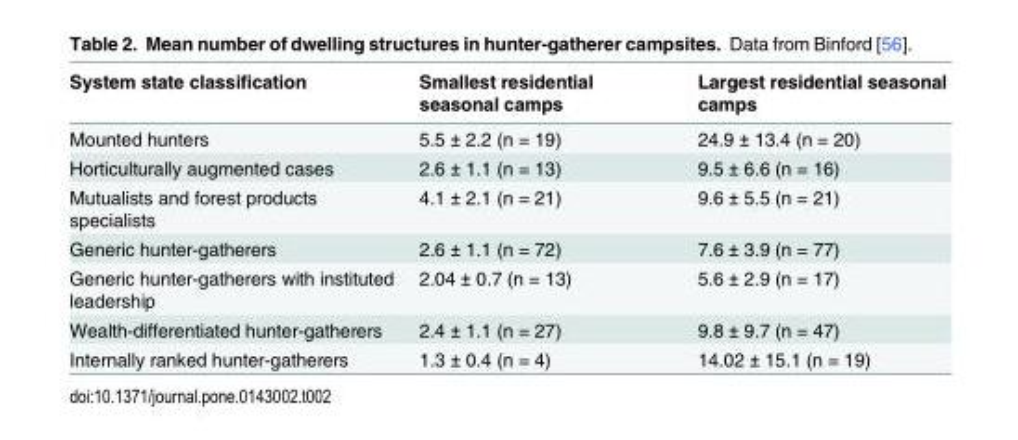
<table><thead><tr><td>System state classification</td><td>Smallest residential seasonal camps</td><td>Largest residential seasonal camps</td></tr></thead><tbody><tr><td>Mounted hunters</td><td>5.5 ± 2.2 (n = 19)</td><td>24.9 ± 13.4 (n = 20)</td></tr><tr><td>Horticulturally augmented cases</td><td>2.6 ± 1.1 (n = 13)</td><td>9.5 ± 6.6 (n = 16)</td></tr><tr><td>Mutualists and forest products specialists</td><td>4.1 ± 2.1 (n = 21)</td><td>9.6 ± 5.5 (n = 21)</td></tr><tr><td>Generic hunter-gatherers</td><td>2.6 ± 1.1 (n = 72)</td><td>7.6 ± 3.9 (n = 77)</td></tr><tr><td>Generic hunter-gatherers with instituted leadership</td><td>2.04 ± 0.7 (n = 13)</td><td>5.6 ± 2.9 (n = 17)</td></tr><tr><td>Wealth-differentiated hunter-gatherers</td><td>2.4 ± 1.1 (n = 27)</td><td>9.8 ± 9.7 (n = 47)</td></tr><tr><td>Internally ranked hunter-gatherers</td><td>1.3 ± 0.4 (n = 4)</td><td>14.02 ± 15.1 (n = 19)</td></tr></tbody></table>